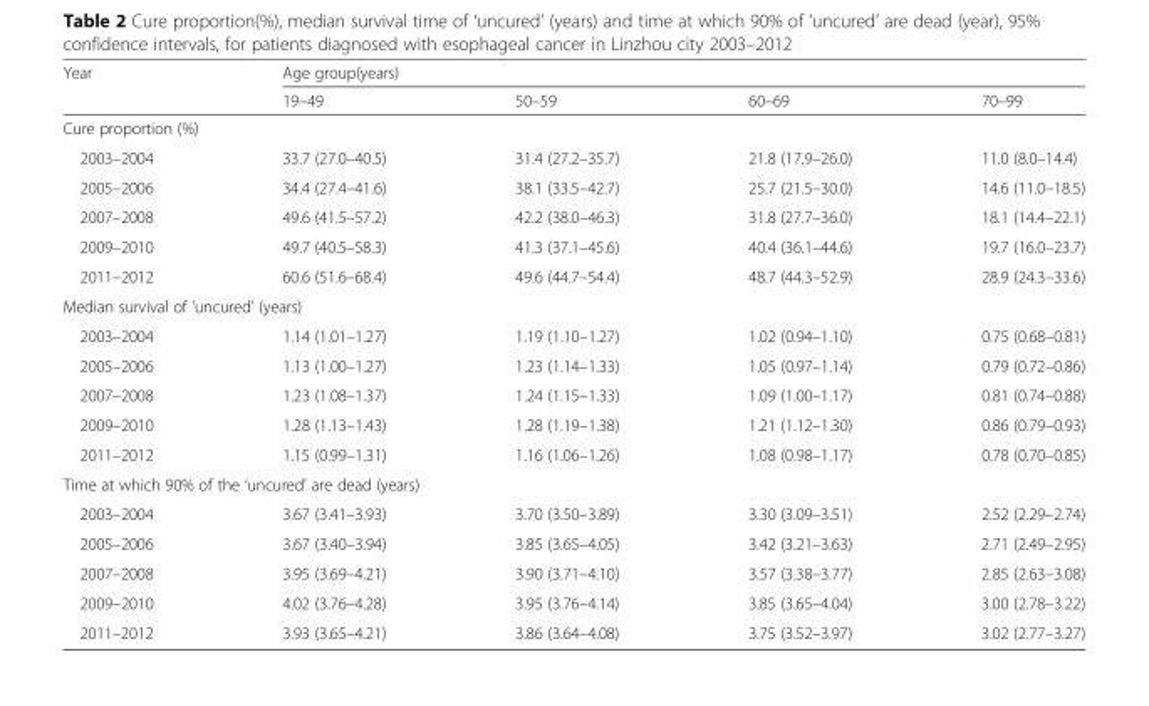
<table><thead><tr><td rowspan="2">Year</td><td colspan="4">Age group(years)</td></tr><tr><td>19–49</td><td>50–59</td><td>60–69</td><td>70–99</td></tr></thead><tbody><tr><td colspan="5">Cure proportion (%)</td></tr><tr><td>2003–2004</td><td>33.7 (27.0–40.5)</td><td>31.4 (27.2–35.7)</td><td>21.8 (17.9–26.0)</td><td>11.0 (8.0–14.4)</td></tr><tr><td>2005–2006</td><td>34.4 (27.4–41.6)</td><td>38.1 (33.5–42.7)</td><td>25.7 (21.5–30.0)</td><td>14.6 (11.0–18.5)</td></tr><tr><td>2007–2008</td><td>49.6 (41.5–57.2)</td><td>42.2 (38.0–46.3)</td><td>31.8 (27.7–36.0)</td><td>18.1 (14.4–22.1)</td></tr><tr><td>2009–2010</td><td>49.7 (40.5–58.3)</td><td>41.3 (37.1–45.6)</td><td>40.4 (36.1–44.6)</td><td>19.7 (16.0–23.7)</td></tr><tr><td>2011–2012</td><td>60.6 (51.6–68.4)</td><td>49.6 (44.7–54.4)</td><td>48.7 (44.3–52.9)</td><td>28.9 (24.3–33.6)</td></tr><tr><td colspan="5">Median survival of ‘uncured’ (years)</td></tr><tr><td>2003–2004</td><td>1.14 (1.01–1.27)</td><td>1.19 (1.10–1.27)</td><td>1.02 (0.94–1.10)</td><td>0.75 (0.68–0.81)</td></tr><tr><td>2005–2006</td><td>1.13 (1.00–1.27)</td><td>1.23 (1.14–1.33)</td><td>1.05 (0.97–1.14)</td><td>0.79 (0.72–0.86)</td></tr><tr><td>2007–2008</td><td>1.23 (1.08–1.37)</td><td>1.24 (1.15–1.33)</td><td>1.09 (1.00–1.17)</td><td>0.81 (0.74–0.88)</td></tr><tr><td>2009–2010</td><td>1.28 (1.13–1.43)</td><td>1.28 (1.19–1.38)</td><td>1.21 (1.12–1.30)</td><td>0.86 (0.79–0.93)</td></tr><tr><td>2011–2012</td><td>1.15 (0.99–1.31)</td><td>1.16 (1.06–1.26)</td><td>1.08 (0.98–1.17)</td><td>0.78 (0.70–0.85)</td></tr><tr><td colspan="5">Time at which 90% of the ‘uncured’ are dead (years)</td></tr><tr><td>2003–2004</td><td>3.67 (3.41–3.93)</td><td>3.70 (3.50–3.89)</td><td>3.30 (3.09–3.51)</td><td>2.52 (2.29–2.74)</td></tr><tr><td>2005–2006</td><td>3.67 (3.40–3.94)</td><td>3.85 (3.65–4.05)</td><td>3.42 (3.21–3.63)</td><td>2.71 (2.49–2.95)</td></tr><tr><td>2007–2008</td><td>3.95 (3.69–4.21)</td><td>3.90 (3.71–4.10)</td><td>3.57 (3.38–3.77)</td><td>2.85 (2.63–3.08)</td></tr><tr><td>2009–2010</td><td>4.02 (3.76–4.28)</td><td>3.95 (3.76–4.14)</td><td>3.85 (3.65–4.04)</td><td>3.00 (2.78–3.22)</td></tr><tr><td>2011–2012</td><td>3.93 (3.65–4.21)</td><td>3.86 (3.64–4.08)</td><td>3.75 (3.52–3.97)</td><td>3.02 (2.77–3.27)</td></tr></tbody></table>